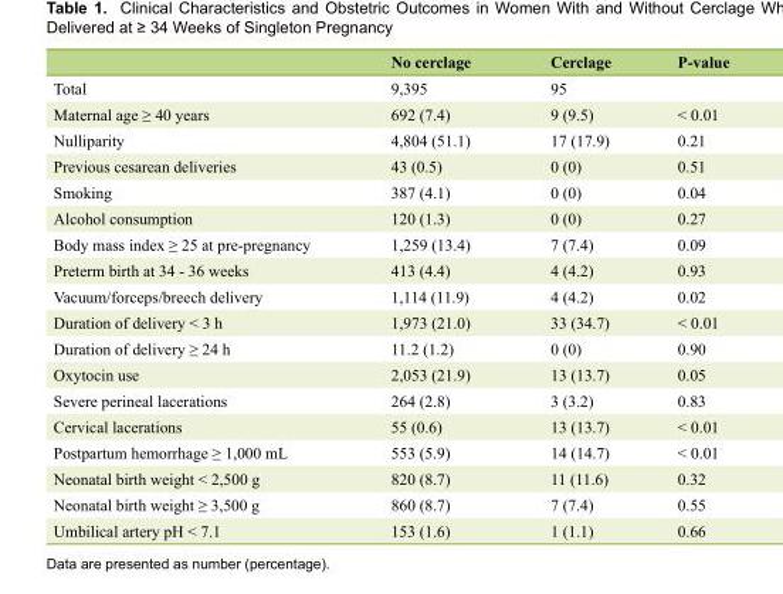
<table><thead><tr><td></td><td>No cerclage</td><td>Cerclage</td><td>P-value</td></tr></thead><tbody><tr><td>Total</td><td>9,395</td><td>95</td><td></td></tr><tr><td>Maternal age ≥ 40 years</td><td>692 (7.4)</td><td>9 (9.5)</td><td>&lt; 0.01</td></tr><tr><td>Nulliparity</td><td>4,804 (51.1)</td><td>17 (17.9)</td><td>0.21</td></tr><tr><td>Previous cesarean deliveries</td><td>43 (0.5)</td><td>0 (0)</td><td>0.51</td></tr><tr><td>Smoking</td><td>387 (4.1)</td><td>0 (0)</td><td>0.04</td></tr><tr><td>Alcohol consumption</td><td>120 (1.3)</td><td>0 (0)</td><td>0.27</td></tr><tr><td>Body mass index ≥ 25 at pre-pregnancy</td><td>1,259 (13.4)</td><td>7 (7.4)</td><td>0.09</td></tr><tr><td>Preterm birth at 34 - 36 weeks</td><td>413 (4.4)</td><td>4 (4.2)</td><td>0.93</td></tr><tr><td>Vacuum/forceps/breech delivery</td><td>1,114 (11.9)</td><td>4 (4.2)</td><td>0.02</td></tr><tr><td>Duration of delivery &lt; 3 h</td><td>1,973 (21.0)</td><td>33 (34.7)</td><td>&lt; 0.01</td></tr><tr><td>Duration of delivery ≥ 24 h</td><td>11.2 (1.2)</td><td>0 (0)</td><td>0.90</td></tr><tr><td>Oxytocin use</td><td>2,053 (21.9)</td><td>13 (13.7)</td><td>0.05</td></tr><tr><td>Severe perineal lacerations</td><td>264 (2.8)</td><td>3 (3.2)</td><td>0.83</td></tr><tr><td>Cervical lacerations</td><td>55 (0.6)</td><td>13 (13.7)</td><td>&lt; 0.01</td></tr><tr><td>Postpartum hemorrhage ≥ 1,000 mL</td><td>553 (5.9)</td><td>14 (14.7)</td><td>&lt; 0.01</td></tr><tr><td>Neonatal birth weight &lt; 2,500 g</td><td>820 (8.7)</td><td>11 (11.6)</td><td>0.32</td></tr><tr><td>Neonatal birth weight ≥ 3,500 g</td><td>860 (8.7)</td><td>7 (7.4)</td><td>0.55</td></tr><tr><td>Umbilical artery pH &lt; 7.1</td><td>153 (1.6)</td><td>1 (1.1)</td><td>0.66</td></tr></tbody></table>